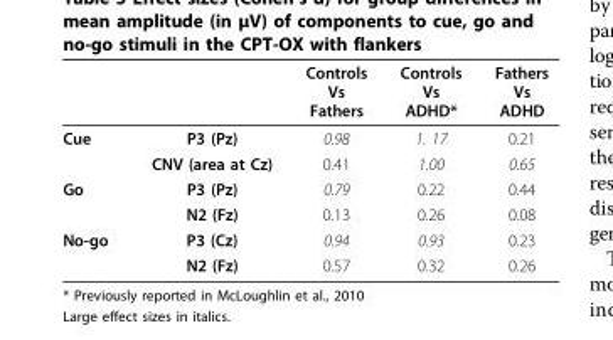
<table><thead><tr><td></td><td></td><td>Controls Vs Fathers</td><td>Controls Vs ADHD*</td><td>Fathers Vs ADHD</td></tr></thead><tbody><tr><td rowspan="2">Cue</td><td>P3 (Pz)</td><td>0.98</td><td>1. 17</td><td>0.21</td></tr><tr><td>CNV (area at Cz)</td><td>0.41</td><td>1.00</td><td>0.65</td></tr><tr><td rowspan="2">Go</td><td>P3 (Pz)</td><td>0.79</td><td>0.22</td><td>0.44</td></tr><tr><td>N2 (Fz)</td><td>0.13</td><td>0.26</td><td>0.08</td></tr><tr><td rowspan="2">No-go</td><td>P3 (Cz)</td><td>0.94</td><td>0.93</td><td>0.23</td></tr><tr><td>N2 (Fz)</td><td>0.57</td><td>0.32</td><td>0.26</td></tr></tbody></table>